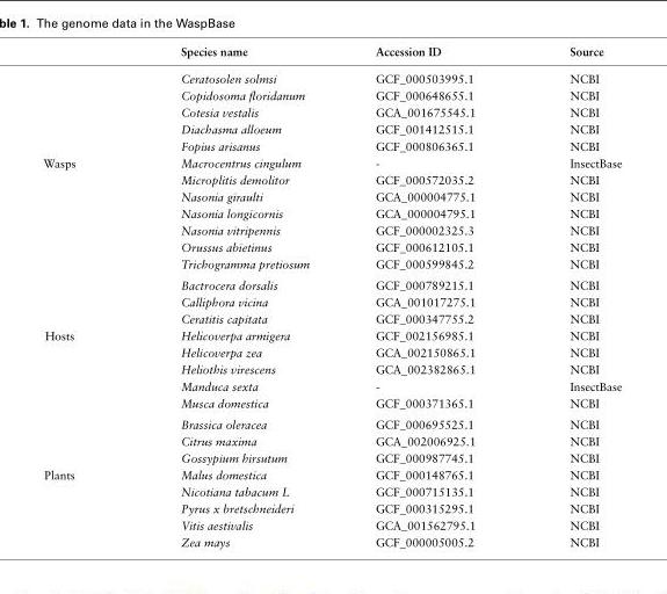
<table><thead><tr><td></td><td>Species name</td><td>Accession ID</td><td>Source</td></tr></thead><tbody><tr><td></td><td>Ceratosolen solmsi</td><td>GCF_000503995.1</td><td>NCBI</td></tr><tr><td></td><td>Copidosoma floridanum</td><td>GCF_000648655.1</td><td>NCBI</td></tr><tr><td></td><td>Cotesia vestalis</td><td>GCA_001675545.1</td><td>NCBI</td></tr><tr><td></td><td>Diachasma alloeum</td><td>GCF_001412515.1</td><td>NCBI</td></tr><tr><td></td><td>Fopius arisanus</td><td>GCF_000806365.1</td><td>NCBI</td></tr><tr><td rowspan="10">Wasps</td><td>Macrocentrus cingulum</td><td>-</td><td>InsectBase</td></tr><tr><td>Microplitis demolitor</td><td>GCF_000572035.2</td><td>NCBI</td></tr><tr><td>Nasonia giraulti</td><td>GCA_000004775.1</td><td>NCBI</td></tr><tr><td>Nasonia longicornis</td><td>GCA_000004795.1</td><td>NCBI</td></tr><tr><td>Nasonia vitripennis</td><td>GCF_000002325.3</td><td>NCBI</td></tr><tr><td>Orussus abietinus</td><td>GCF_000612105.1</td><td>NCBI</td></tr><tr><td>Trichogramma pretiosum</td><td>GCF_000599845.2</td><td>NCBI</td></tr><tr><td>Bactrocera dorsalis</td><td>GCF_000789215.1</td><td>NCBI</td></tr><tr><td>Calliphora vicina</td><td>GCA_001017275.1</td><td>NCBI</td></tr><tr><td>Ceratitis capitata</td><td>GCF_000347755.2</td><td>NCBI</td></tr><tr><td rowspan="8">Hosts</td><td>Helicoverpa armigera</td><td>GCF_002156985.1</td><td>NCBI</td></tr><tr><td>Helicoverpa zea</td><td>GCA_002150865.1</td><td>NCBI</td></tr><tr><td>Heliothis virescens</td><td>GCA_002382865.1</td><td>NCBI</td></tr><tr><td>Manduca sexta</td><td>-</td><td>InsectBase</td></tr><tr><td>Musca domestica</td><td>GCF_000371365.1</td><td>NCBI</td></tr><tr><td>Brassica oleracea</td><td>GCF_000695525.1</td><td>NCBI</td></tr><tr><td>Citrus maxima</td><td>GCA_002006925.1</td><td>NCBI</td></tr><tr><td>Gossypium hirsutum</td><td>GCF_000987745.1</td><td>NCBI</td></tr><tr><td rowspan="5">Plants</td><td>Malus domestica</td><td>GCF_000148765.1</td><td>NCBI</td></tr><tr><td>Nicotiana tabacum L</td><td>GCF_000715135.1</td><td>NCBI</td></tr><tr><td>Pyrus x bretschneideri</td><td>GCF_000315295.1</td><td>NCBI</td></tr><tr><td>Vitis aestivalis</td><td>GCA_001562795.1</td><td>NCBI</td></tr><tr><td>Zea mays</td><td>GCF_000005005.2</td><td>NCBI</td></tr></tbody></table>